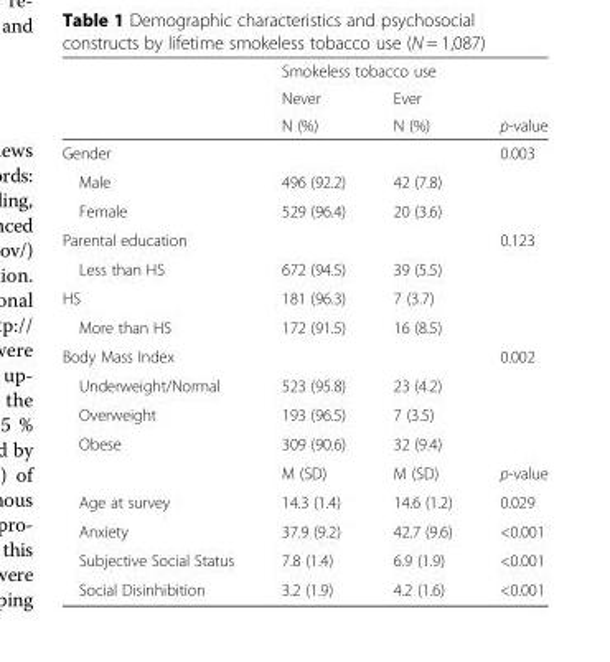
<table><thead><tr><td rowspan="3"></td><td colspan="3">Smokeless tobacco use</td></tr><tr><td rowspan="2">Never N (%)</td><td rowspan="2">Ever N (%)</td><td rowspan="2">p-value</td></tr><tr></tr></thead><tbody><tr><td>Gender</td><td></td><td></td><td>0.003</td></tr><tr><td>Male</td><td>496 (92.2)</td><td>42 (7.8)</td><td></td></tr><tr><td>Female</td><td>529 (96.4)</td><td>20 (3.6)</td><td></td></tr><tr><td>Parental education</td><td></td><td></td><td>0.123</td></tr><tr><td>Less than HS</td><td>672 (94.5)</td><td>39 (5.5)</td><td></td></tr><tr><td>HS</td><td>181 (96.3)</td><td>7 (3.7)</td><td></td></tr><tr><td>More than HS</td><td>172 (91.5)</td><td>16 (8.5)</td><td></td></tr><tr><td>Body Mass Index</td><td></td><td></td><td>0.002</td></tr><tr><td>Underweight/Normal</td><td>523 (95.8)</td><td>23 (4.2)</td><td></td></tr><tr><td>Overweight</td><td>193 (96.5)</td><td>7 (3.5)</td><td></td></tr><tr><td rowspan="2">Obese</td><td>309 (90.6)</td><td>32 (9.4)</td><td></td></tr><tr><td>M (SD)</td><td>M (SD)</td><td>p-value</td></tr><tr><td>Age at survey</td><td>14.3 (1.4)</td><td>14.6 (1.2)</td><td>0.029</td></tr><tr><td>Anxiety</td><td>37.9 (9.2)</td><td>42.7 (9.6)</td><td>&lt;0.001</td></tr><tr><td>Subjective Social Status</td><td>7.8 (1.4)</td><td>6.9 (1.9)</td><td>&lt;0.001</td></tr><tr><td>Social Disinhibition</td><td>3.2 (1.9)</td><td>4.2 (1.6)</td><td>&lt;0.001</td></tr></tbody></table>